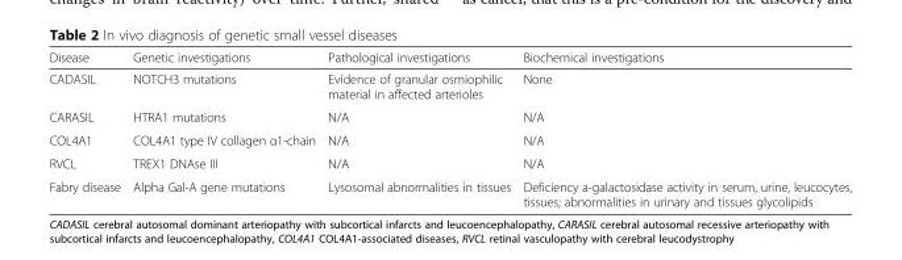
<table><thead><tr><td>Disease</td><td>Genetic investigations</td><td>Pathological investigations</td><td>Biochemical investigations</td></tr></thead><tbody><tr><td>CADASIL</td><td>NOTCH3 mutations</td><td>Evidence of granular osmiophilic material in affected arterioles</td><td>None</td></tr><tr><td>CARASIL</td><td>HTRA1 mutations</td><td>N/A</td><td>N/A</td></tr><tr><td>COL4A1</td><td>COL4A1 type IV collagen α1-chain</td><td>N/A</td><td>N/A</td></tr><tr><td>RVCL</td><td>TREX1 DNAse III</td><td>N/A</td><td>N/A</td></tr><tr><td>Fabry disease</td><td>Alpha Gal-A gene mutations</td><td>Lysosomal abnormalities in tissues</td><td>Deficiency a-galactosidase activity in serum, urine, leucocytes, tissues; abnormalities in urinary and tissues glycolipids</td></tr></tbody></table>